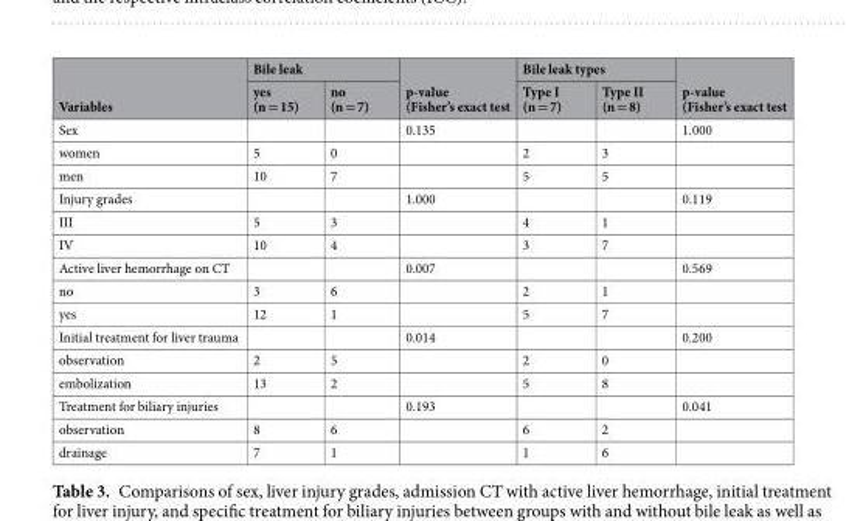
<table><thead><tr><td rowspan="2">Variables</td><td colspan="2">Bile leak</td><td rowspan="2">p-value (Fisher’s exact test</td><td colspan="2">Bile leak types</td><td rowspan="2">p-value (Fisher’s exact test</td></tr><tr><td>yes (n = 15)</td><td>no (n = 7)</td><td>Type I (n = 7)</td><td>Type II (n = 8)</td></tr></thead><tbody><tr><td>Sex</td><td></td><td></td><td>0.135</td><td></td><td></td><td>1.000</td></tr><tr><td>women</td><td>5</td><td>0</td><td></td><td>2</td><td>3</td><td></td></tr><tr><td>men</td><td>10</td><td>7</td><td></td><td>5</td><td>5</td><td></td></tr><tr><td>Injury grades</td><td></td><td></td><td>1.000</td><td></td><td></td><td>0.119</td></tr><tr><td>III</td><td>5</td><td>3</td><td></td><td>4</td><td>1</td><td></td></tr><tr><td>IV</td><td>10</td><td>4</td><td></td><td>3</td><td>7</td><td></td></tr><tr><td>Active liver hemorrhage on CT</td><td></td><td></td><td>0.007</td><td></td><td></td><td>0.569</td></tr><tr><td>no</td><td>3</td><td>6</td><td></td><td>2</td><td>1</td><td></td></tr><tr><td>yes</td><td>12</td><td>1</td><td></td><td>5</td><td>7</td><td></td></tr><tr><td>Initial treatment for liver trauma</td><td></td><td></td><td>0.014</td><td></td><td></td><td>0.200</td></tr><tr><td>observation</td><td>2</td><td>5</td><td></td><td>2</td><td>0</td><td></td></tr><tr><td>embolization</td><td>13</td><td>2</td><td></td><td>5</td><td>8</td><td></td></tr><tr><td>Treatment for biliary injuries</td><td></td><td></td><td>0.193</td><td></td><td></td><td>0.041</td></tr><tr><td>observation</td><td>8</td><td>6</td><td></td><td>6</td><td>2</td><td></td></tr><tr><td>drainage</td><td>7</td><td>1</td><td></td><td>1</td><td>6</td><td></td></tr></tbody></table>